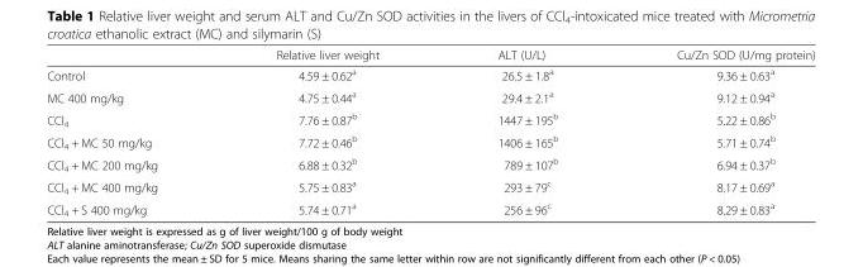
<table><thead><tr><td></td><td>Relative liver weight</td><td>ALT (U/L)</td><td>Cu/Zn SOD (U/mg protein)</td></tr></thead><tbody><tr><td>Control</td><td>4.59 ± 0.62<sup>a</sup></td><td>26.5 ± 1.8<sup>a</sup></td><td>9.36 ± 0.63<sup>a</sup></td></tr><tr><td>MC 400 mg/kg</td><td>4.75 ± 0.44<sup>a</sup></td><td>29.4 ± 2.1<sup>a</sup></td><td>9.12 ± 0.94<sup>a</sup></td></tr><tr><td>CCl<sub>4</sub></td><td>7.76 ± 0.87<sup>b</sup></td><td>1447 ± 195<sup>b</sup></td><td>5.22 ± 0.86<sup>b</sup></td></tr><tr><td>CCl<sub>4</sub> + MC 50 mg/kg</td><td>7.72 ± 0.46<sup>b</sup></td><td>1406 ± 165<sup>b</sup></td><td>5.71 ± 0.74<sup>b</sup></td></tr><tr><td>CCl<sub>4</sub> + MC 200 mg/kg</td><td>6.88 ± 0.32<sup>b</sup></td><td>789 ± 107<sup>b</sup></td><td>6.94 ± 0.37<sup>b</sup></td></tr><tr><td>CCl<sub>4</sub> + MC 400 mg/kg</td><td>5.75 ± 0.83<sup>a</sup></td><td>293 ± 79<sup>c</sup></td><td>8.17 ± 0.69<sup>a</sup></td></tr><tr><td>CCl<sub>4</sub> + S 400 mg/kg</td><td>5.74 ± 0.71<sup>a</sup></td><td>256 ± 96<sup>c</sup></td><td>8.29 ± 0.83<sup>a</sup></td></tr></tbody></table>